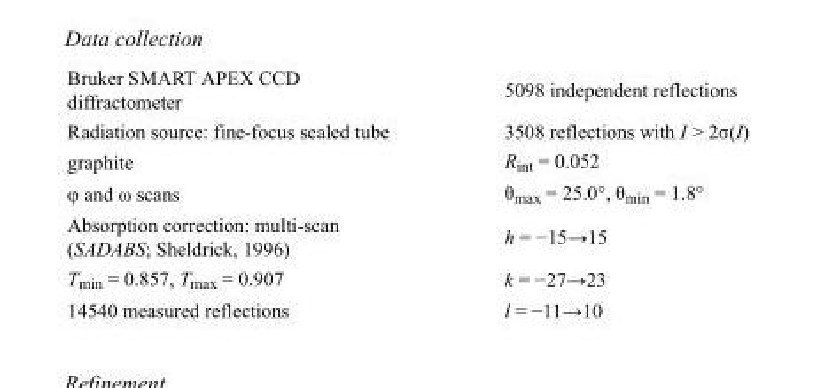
<table><tbody><tr><td>Bruker SMART APEX CCD diffractometer</td><td>5098 independent reflections</td></tr><tr><td>Radiation source: fine-focus sealed tube</td><td>3508 reflections with I &gt; 2σ(I)</td></tr><tr><td>graphite</td><td>R<sub>int</sub> = 0.052</td></tr><tr><td>φ and ω scans</td><td>θ<sub>max</sub> = 25.0°, θ<sub>min</sub> = 1.8°</td></tr><tr><td>Absorption correction: multi-scan (SADABS; Sheldrick, 1996)</td><td>h = −15→15</td></tr><tr><td>T<sub>min</sub> = 0.857, T<sub>max</sub> = 0.907</td><td>k = −27→23</td></tr><tr><td>14540 measured reflections</td><td>l = −11→10</td></tr></tbody></table>